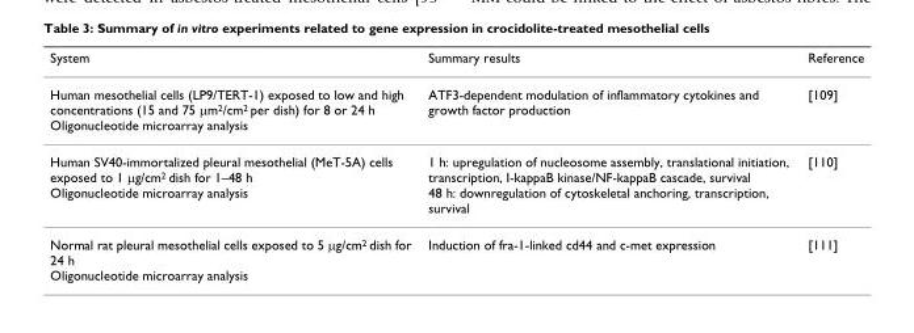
<table><thead><tr><td>System</td><td>Summary results</td><td>Reference</td></tr></thead><tbody><tr><td>Human mesothelial cells (LP9/TERT-1) exposed to low and high concentrations (15 and 75 μm<sup>2</sup>/cm<sup>2</sup> per dish) for 8 or 24 h Oligonucleotide microarray analysis</td><td>ATF3-dependent modulation of inflammatory cytokines and growth factor production</td><td>[109]</td></tr><tr><td>Human SV40-immortalized pleural mesothelial (MeT-5A) cells exposed to 1 μg/cm<sup>2</sup> dish for 1–48 h Oligonucleotide microarray analysis</td><td>1 h: upregulation of nucleosome assembly, translational initiation, transcription, I-kappaB kinase/NF-kappaB cascade, survival 48 h: downregulation of cytoskeletal anchoring, transcription, survival</td><td>[110]</td></tr><tr><td>Normal rat pleural mesothelial cells exposed to 5 μg/cm<sup>2</sup> dish for 24 h Oligonucleotide microarray analysis</td><td>Induction of fra-1-linked cd44 and c-met expression</td><td>[111]</td></tr></tbody></table>